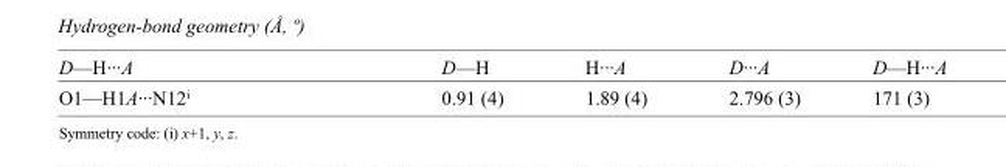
<table><tbody><tr><td>D—H···A</td><td>D—H</td><td>H···A</td><td>D···A</td><td>D—H···A</td></tr><tr><td>O1—H1A···N12<sup>i</sup></td><td>0.91 (4)</td><td>1.89 (4)</td><td>2.796 (3)</td><td>171 (3)</td></tr></tbody></table>